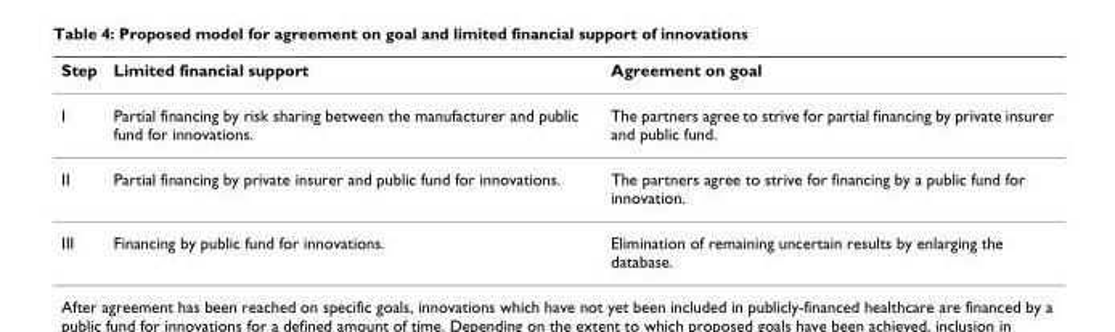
<table><thead><tr><td>Step</td><td>Limited financial support</td><td>Agreement on goal</td></tr></thead><tbody><tr><td>I</td><td>Partial financing by risk sharing between the manufacturer and public fund for innovations.</td><td>The partners agree to strive for partial financing by private insurer and public fund.</td></tr><tr><td>II</td><td>Partial financing by private insurer and public fund for innovations.</td><td>The partners agree to strive for financing by a public fund for innovation.</td></tr><tr><td>III</td><td>Financing by public fund for innovations.</td><td>Elimination of remaining uncertain results by enlarging the database.</td></tr></tbody></table>